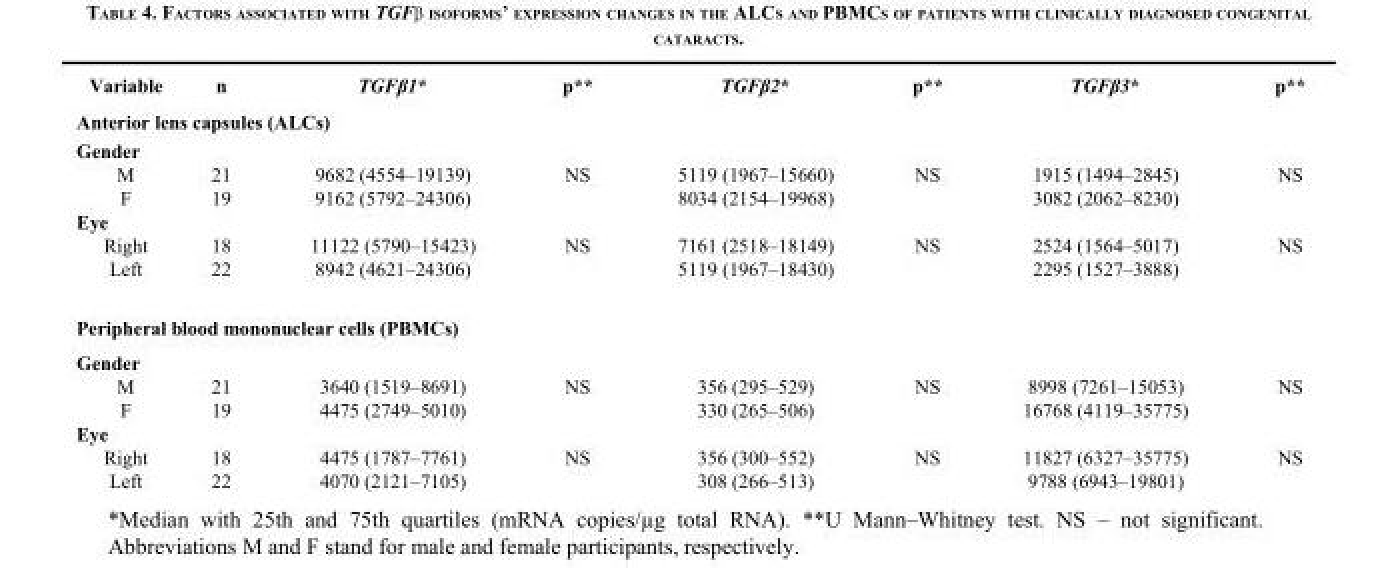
<table><thead><tr><td>Variable</td><td>n</td><td>TGFβ1*</td><td>p**</td><td>TGFβ2*</td><td>p**</td><td>TGFβ3*</td><td>p**</td></tr></thead><tbody><tr><td colspan="8">Anterior lens capsules (ALCs)</td></tr><tr><td colspan="8">Gender</td></tr><tr><td>M</td><td>21</td><td>9682 (4554–19139)</td><td>NS</td><td>5119 (1967–15660)</td><td>NS</td><td>1915 (1494–2845)</td><td>NS</td></tr><tr><td>F</td><td>19</td><td>9162 (5792–24306)</td><td></td><td>8034 (2154–19968)</td><td></td><td>3082 (2062–8230)</td><td></td></tr><tr><td colspan="8">Eye</td></tr><tr><td>Right</td><td>18</td><td>11122 (5790–15423)</td><td>NS</td><td>7161 (2518–18149)</td><td>NS</td><td>2524 (1564–5017)</td><td>NS</td></tr><tr><td>Left</td><td>22</td><td>8942 (4621–24306)</td><td></td><td>5119 (1967–18430)</td><td></td><td>2295 (1527–3888)</td><td></td></tr><tr><td colspan="8">Peripheral blood mononuclear cells (PBMCs)</td></tr><tr><td colspan="8">Gender</td></tr><tr><td>M</td><td>21</td><td>3640 (1519–8691)</td><td>NS</td><td>356 (295–529)</td><td>NS</td><td>8998 (7261–15053)</td><td>NS</td></tr><tr><td>F</td><td>19</td><td>4475 (2749–5010)</td><td></td><td>330 (265–506)</td><td></td><td>16768 (4119–35775)</td><td></td></tr><tr><td colspan="8">Eye</td></tr><tr><td>Right</td><td>18</td><td>4475 (1787–7761)</td><td>NS</td><td>356 (300–552)</td><td>NS</td><td>11827 (6327–35775)</td><td>NS</td></tr><tr><td>Left</td><td>22</td><td>4070 (2121–7105)</td><td></td><td>308 (266–513)</td><td></td><td>9788 (6943–19801)</td><td></td></tr></tbody></table>